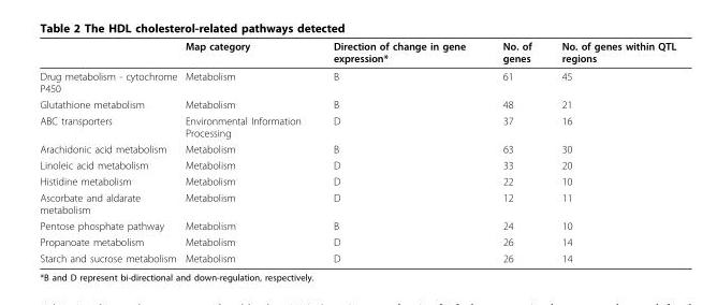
<table><thead><tr><td></td><td>Map category</td><td>Direction of change in gene expression*</td><td>No. of genes</td><td>No. of genes within QTL regions</td></tr></thead><tbody><tr><td>Drug metabolism - cytochrome P450</td><td>Metabolism</td><td>B</td><td>61</td><td>45</td></tr><tr><td>Glutathione metabolism</td><td>Metabolism</td><td>B</td><td>48</td><td>21</td></tr><tr><td>ABC transporters</td><td>Environmental Information Processing</td><td>D</td><td>37</td><td>16</td></tr><tr><td>Arachidonic acid metabolism</td><td>Metabolism</td><td>B</td><td>63</td><td>30</td></tr><tr><td>Linoleic acid metabolism</td><td>Metabolism</td><td>D</td><td>33</td><td>20</td></tr><tr><td>Histidine metabolism</td><td>Metabolism</td><td>D</td><td>22</td><td>10</td></tr><tr><td>Ascorbate and aldarate metabolism</td><td>Metabolism</td><td>D</td><td>12</td><td>11</td></tr><tr><td>Pentose phosphate pathway</td><td>Metabolism</td><td>B</td><td>24</td><td>10</td></tr><tr><td>Propanoate metabolism</td><td>Metabolism</td><td>D</td><td>26</td><td>14</td></tr><tr><td>Starch and sucrose metabolism</td><td>Metabolism</td><td>D</td><td>26</td><td>14</td></tr></tbody></table>